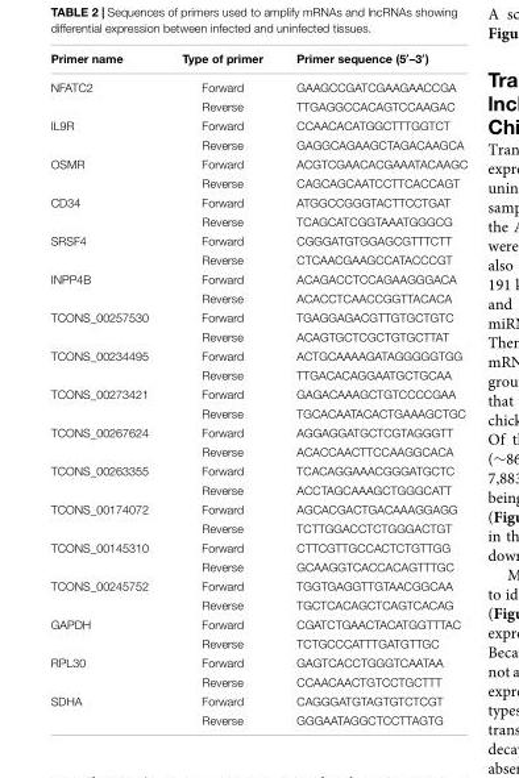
<table><thead><tr><td>Primer name</td><td>Type of primer</td><td>Primer sequence (5′–3′)</td></tr></thead><tbody><tr><td rowspan="2">NFATC2</td><td>Forward</td><td>GAAGCCGATCGAAGAACCGA</td></tr><tr><td>Reverse</td><td>TTGAGGCCACAGTCCAAGAC</td></tr><tr><td rowspan="2">IL9R</td><td>Forward</td><td>CCAACACATGGCTTTGGTCT</td></tr><tr><td>Reverse</td><td>GAGGCAGAAGCTAGACAAGCA</td></tr><tr><td rowspan="2">OSMR</td><td>Forward</td><td>ACGTCGAACACGAAATACAAGC</td></tr><tr><td>Reverse</td><td>CAGCAGCAATCCTTCACCAGT</td></tr><tr><td rowspan="2">CD34</td><td>Forward</td><td>ATGGCCGGGTACTTCCTGAT</td></tr><tr><td>Reverse</td><td>TCAGCATCGGTAAATGGGCG</td></tr><tr><td rowspan="2">SRSF4</td><td>Forward</td><td>CGGGATGTGGAGCGTTTCTT</td></tr><tr><td>Reverse</td><td>CTCAACGAAGCCATACCCGT</td></tr><tr><td rowspan="2">INPP4B</td><td>Forward</td><td>ACAGACCTCCAGAAGGGACA</td></tr><tr><td>Reverse</td><td>ACACCTCAACCGGTTACACA</td></tr><tr><td rowspan="2">TCONS_00257530</td><td>Forward</td><td>TGAGGAGACGTTGTGCTGTC</td></tr><tr><td>Reverse</td><td>ACAGTGCTCGCTGTGCTTAT</td></tr><tr><td rowspan="2">TCONS_00234495</td><td>Forward</td><td>ACTGCAAAAGATAGGGGGTGG</td></tr><tr><td>Reverse</td><td>TTGACACAGGAATGCTGCAA</td></tr><tr><td rowspan="2">TCONS_00273421</td><td>Forward</td><td>GAGACAAAGCTGTCCCCGAA</td></tr><tr><td>Reverse</td><td>TGCACAATACACTGAAAGCTGC</td></tr><tr><td rowspan="2">TCONS_00267624</td><td>Forward</td><td>AGGAGGATGCTCGTAGGGTT</td></tr><tr><td>Reverse</td><td>ACACCAACTTCCAAGGCACA</td></tr><tr><td rowspan="2">TCONS_00263355</td><td>Forward</td><td>TCACAGGAAACGGGATGCTC</td></tr><tr><td>Reverse</td><td>ACCTAGCAAAGCTGGGCATT</td></tr><tr><td rowspan="2">TCONS_00174072</td><td>Forward</td><td>AGCACGACTGACAAAGGAGG</td></tr><tr><td>Reverse</td><td>TCTTGGACCTCTGGGACTGT</td></tr><tr><td rowspan="2">TCONS_00145310</td><td>Forward</td><td>CTTCGTTGCCACTCTGTTGG</td></tr><tr><td>Reverse</td><td>GCAAGGTCACCACAGTTTGC</td></tr><tr><td rowspan="2">TCONS_00245752</td><td>Forward</td><td>TGGTGAGGTTGTAACGGCAA</td></tr><tr><td>Reverse</td><td>TGCTCACAGCTCAGTCACAG</td></tr><tr><td rowspan="2">GAPDH</td><td>Forward</td><td>CGATCTGAACTACATGGTTTAC</td></tr><tr><td>Reverse</td><td>TCTGCCCATTTGATGTTGC</td></tr><tr><td rowspan="2">RPL30</td><td>Forward</td><td>GAGTCACCTGGGTCAATAA</td></tr><tr><td>Reverse</td><td>CCAACAACTGTCCTGCTTT</td></tr><tr><td rowspan="2">SDHA</td><td>Forward</td><td>CAGGGATGTAGTGTCTCGT</td></tr><tr><td>Reverse</td><td>GGGAATAGGCTCCTTAGTG</td></tr></tbody></table>